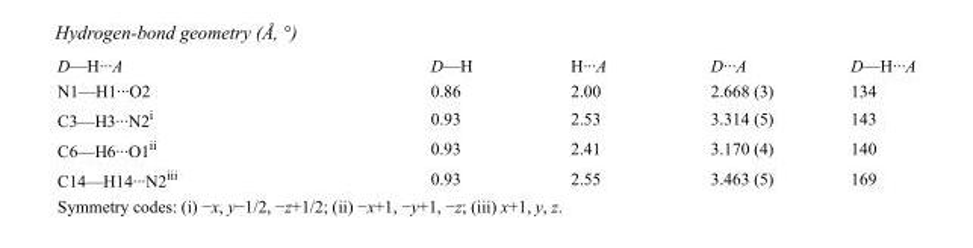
<table><tbody><tr><td>D—H···A</td><td>D—H</td><td>H···A</td><td>D···A</td><td>D—H···A</td></tr><tr><td>N1—H1···O2</td><td>0.86</td><td>2.00</td><td>2.668 (3)</td><td>134</td></tr><tr><td>C3—H3···N2<sup>i</sup></td><td>0.93</td><td>2.53</td><td>3.314 (5)</td><td>143</td></tr><tr><td>C6—H6···O1<sup>ii</sup></td><td>0.93</td><td>2.41</td><td>3.170 (4)</td><td>140</td></tr><tr><td>C14—H14···N2<sup>iii</sup></td><td>0.93</td><td>2.55</td><td>3.463 (5)</td><td>169</td></tr></tbody></table>